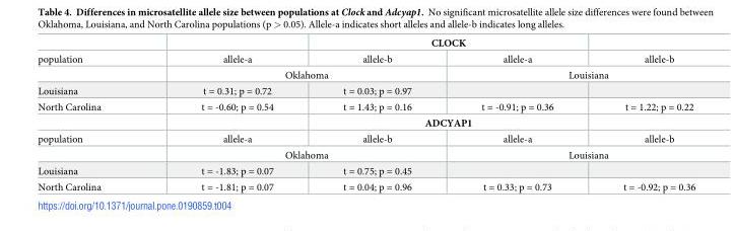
<table><thead><tr><td rowspan="2">population</td><td rowspan="2">allele-a</td><td colspan="2">CLOCK</td><td rowspan="2">allele-b</td></tr><tr><td>allele-b</td><td>allele-a</td></tr></thead><tbody><tr><td></td><td colspan="2">Oklahoma</td><td colspan="2">Louisiana</td></tr><tr><td>Louisiana</td><td>t = 0.31; p = 0.72</td><td>t = 0.03; p = 0.97</td><td></td><td></td></tr><tr><td rowspan="2">North Carolina</td><td>t = -0.60; p = 0.54</td><td>t = 1.43; p = 0.16</td><td>t = -0.91; p = 0.36</td><td>t = 1.22; p = 0.22</td></tr><tr><td></td><td colspan="2">ADCYAP1</td><td></td></tr><tr><td rowspan="2">population</td><td>allele-a</td><td>allele-b</td><td>allele-a</td><td>allele-b</td></tr><tr><td colspan="2">Oklahoma</td><td colspan="2">Louisiana</td></tr><tr><td>Louisiana</td><td>t = -1.83; p = 0.07</td><td>t = 0.75; p = 0.45</td><td></td><td></td></tr><tr><td>North Carolina</td><td>t = -1.81; p = 0.07</td><td>t = 0.04; p = 0.96</td><td>t = 0.33; p = 0.73</td><td>t = -0.92; p = 0.36</td></tr></tbody></table>